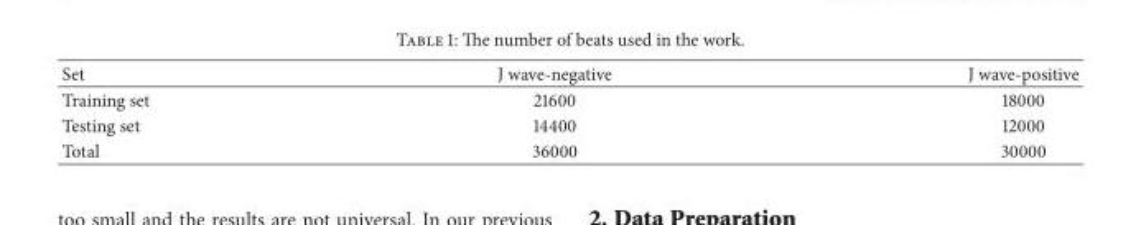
<table><thead><tr><td>Set</td><td>J wave-negative</td><td>J wave-positive</td></tr></thead><tbody><tr><td>Training set</td><td>21600</td><td>18000</td></tr><tr><td>Testing set</td><td>14400</td><td>12000</td></tr><tr><td>Total</td><td>36000</td><td>30000</td></tr></tbody></table>